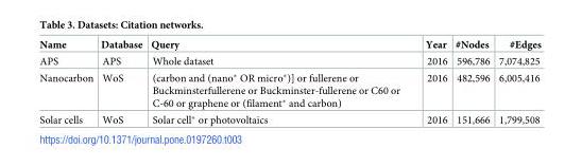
<table><thead><tr><td>Name</td><td>Database</td><td>Query</td><td>Year</td><td>#Nodes</td><td>#Edges</td></tr></thead><tbody><tr><td>APS</td><td>APS</td><td>Whole dataset</td><td>2016</td><td>596,786</td><td>7,074,825</td></tr><tr><td>Nanocarbon</td><td>WoS</td><td>(carbon and (nano* OR micro*)] or fullerene or Buckminsterfullerene or Buckminster-fullerene or C60 or C-60 or graphene or (filament* and carbon)</td><td>2016</td><td>482,596</td><td>6,005,416</td></tr><tr><td>Solar cells</td><td>WoS</td><td>Solar cell* or photovoltaics</td><td>2016</td><td>151,666</td><td>1,799,508</td></tr></tbody></table>